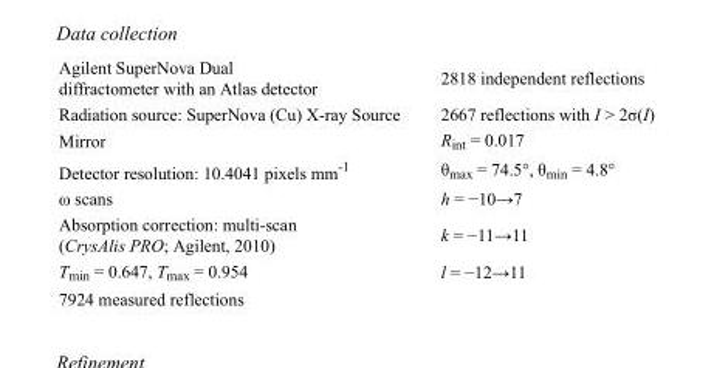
<table><tbody><tr><td>Agilent SuperNova Dual diffractometer with an Atlas detector</td><td>2818 independent reflections</td></tr><tr><td>Radiation source: SuperNova (Cu) X-ray Source</td><td>2667 reflections with I &gt; 2σ(I)</td></tr><tr><td>Mirror</td><td>R<sub>int</sub> = 0.017</td></tr><tr><td>Detector resolution: 10.4041 pixels mm<sup>-1</sup></td><td>θ<sub>max</sub> = 74.5°, θ<sub>min</sub> = 4.8°</td></tr><tr><td>ω scans</td><td>h = −10→7</td></tr><tr><td>Absorption correction: multi-scan (CrysAlis PRO; Agilent, 2010)</td><td>k = −11→11</td></tr><tr><td>T<sub>min</sub> = 0.647, T<sub>max</sub> = 0.954</td><td>l = −12→11</td></tr><tr><td>7924 measured reflections</td><td></td></tr></tbody></table>